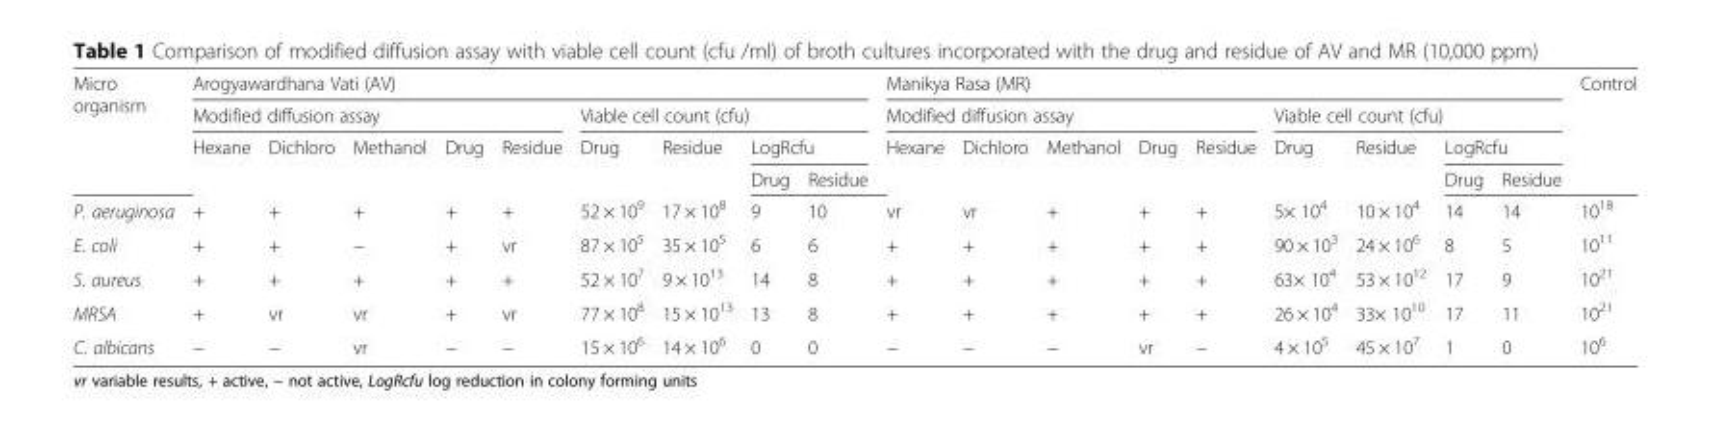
<table><thead><tr><td rowspan="4">Micro organism</td><td colspan="9">Arogyawardhana Vati (AV)</td><td colspan="9">Manikya Rasa (MR)</td><td rowspan="4">Control</td></tr><tr><td colspan="5">Modified diffusion assay</td><td colspan="4">Viable cell count (cfu)</td><td colspan="5">Modified diffusion assay</td><td colspan="4">Viable cell count (cfu)</td></tr><tr><td rowspan="2">Hexane</td><td rowspan="2">Dichloro</td><td rowspan="2">Methanol</td><td rowspan="2">Drug</td><td rowspan="2">Residue</td><td rowspan="2">Drug</td><td rowspan="2">Residue</td><td colspan="2">LogRcfu</td><td rowspan="2">Hexane</td><td rowspan="2">Dichloro</td><td rowspan="2">Methanol</td><td rowspan="2">Drug</td><td rowspan="2">Residue</td><td rowspan="2">Drug</td><td rowspan="2">Residue</td><td colspan="2">LogRcfu</td></tr><tr><td>Drug</td><td>Residue</td><td>Drug</td><td>Residue</td></tr></thead><tbody><tr><td>P. aeruginosa</td><td>+</td><td>+</td><td>+</td><td>+</td><td>+</td><td>52 × 10<sup>9</sup></td><td>17 × 10<sup>8</sup></td><td>9</td><td>10</td><td>vr</td><td>vr</td><td>+</td><td>+</td><td>+</td><td>5× 10<sup>4</sup></td><td>10 × 10<sup>4</sup></td><td>14</td><td>14</td><td>10<sup>18</sup></td></tr><tr><td>E. coli</td><td>+</td><td>+</td><td>−</td><td>+</td><td>vr</td><td>87 × 10<sup>5</sup></td><td>35 × 10<sup>5</sup></td><td>6</td><td>6</td><td>+</td><td>+</td><td>+</td><td>+</td><td>+</td><td>90 × 10<sup>3</sup></td><td>24 × 10<sup>6</sup></td><td>8</td><td>5</td><td>10<sup>11</sup></td></tr><tr><td>S. aureus</td><td>+</td><td>+</td><td>+</td><td>+</td><td>+</td><td>52 × 10<sup>7</sup></td><td>9 × 10<sup>13</sup></td><td>14</td><td>8</td><td>+</td><td>+</td><td>+</td><td>+</td><td>+</td><td>63× 10<sup>4</sup></td><td>53 × 10<sup>12</sup></td><td>17</td><td>9</td><td>10<sup>21</sup></td></tr><tr><td>MRSA</td><td>+</td><td>vr</td><td>vr</td><td>+</td><td>vr</td><td>77 × 10<sup>8</sup></td><td>15 × 10<sup>13</sup></td><td>13</td><td>8</td><td>+</td><td>+</td><td>+</td><td>+</td><td>+</td><td>26 × 10<sup>4</sup></td><td>33× 10<sup>10</sup></td><td>17</td><td>11</td><td>10<sup>21</sup></td></tr><tr><td>C. albicans</td><td>−</td><td>−</td><td>vr</td><td>−</td><td>−</td><td>15 × 10<sup>6</sup></td><td>14 × 10<sup>6</sup></td><td>0</td><td>0</td><td>−</td><td>−</td><td>−</td><td>vr</td><td>−</td><td>4 × 10<sup>5</sup></td><td>45 × 10<sup>7</sup></td><td>1</td><td>0</td><td>10<sup>6</sup></td></tr></tbody></table>